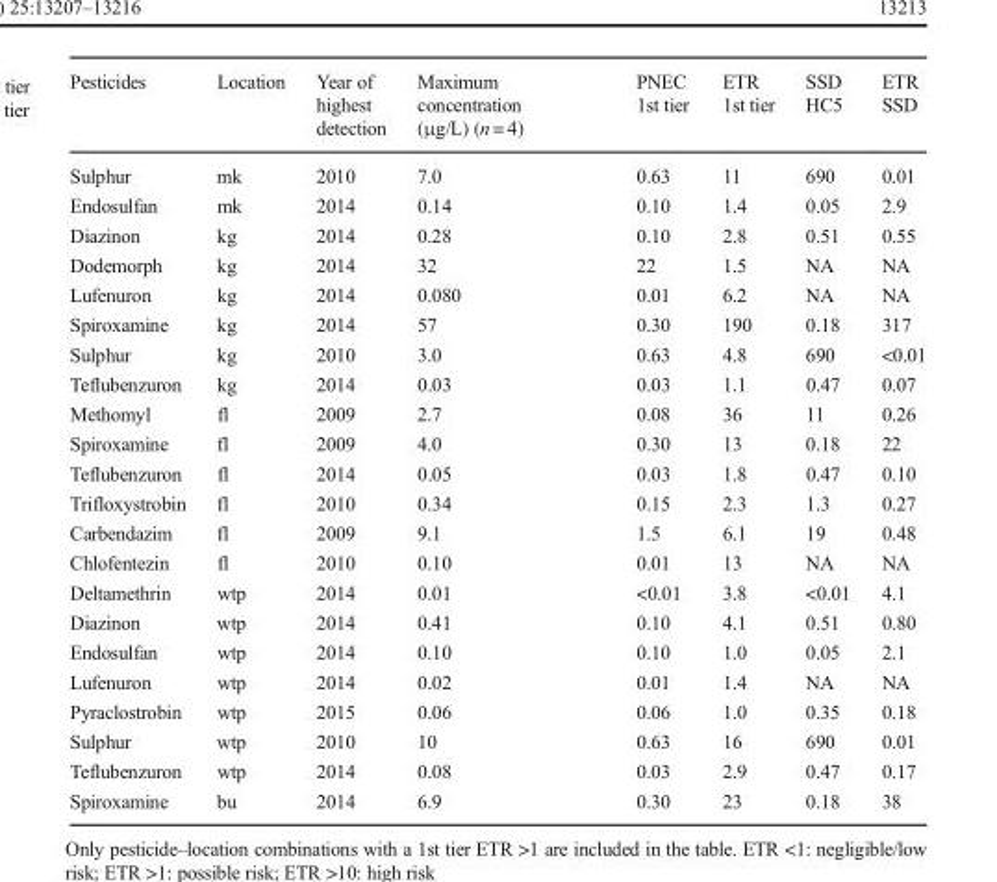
<table><thead><tr><td>Pesticides</td><td>Location</td><td>Year of highest detection</td><td>Maximum concentration (μg/L) (n = 4)</td><td>PNEC 1st tier</td><td>ETR 1st tier</td><td>SSD HC5</td><td>ETR SSD</td></tr></thead><tbody><tr><td>Sulphur</td><td>mk</td><td>2010</td><td>7.0</td><td>0.63</td><td>11</td><td>690</td><td>0.01</td></tr><tr><td>Endosulfan</td><td>mk</td><td>2014</td><td>0.14</td><td>0.10</td><td>1.4</td><td>0.05</td><td>2.9</td></tr><tr><td>Diazinon</td><td>kg</td><td>2014</td><td>0.28</td><td>0.10</td><td>2.8</td><td>0.51</td><td>0.55</td></tr><tr><td>Dodemorph</td><td>kg</td><td>2014</td><td>32</td><td>22</td><td>1.5</td><td>NA</td><td>NA</td></tr><tr><td>Lufenuron</td><td>kg</td><td>2014</td><td>0.080</td><td>0.01</td><td>6.2</td><td>NA</td><td>NA</td></tr><tr><td>Spiroxamine</td><td>kg</td><td>2014</td><td>57</td><td>0.30</td><td>190</td><td>0.18</td><td>317</td></tr><tr><td>Sulphur</td><td>kg</td><td>2010</td><td>3.0</td><td>0.63</td><td>4.8</td><td>690</td><td>&lt;0.01</td></tr><tr><td>Teflubenzuron</td><td>kg</td><td>2014</td><td>0.03</td><td>0.03</td><td>1.1</td><td>0.47</td><td>0.07</td></tr><tr><td>Methomyl</td><td>fl</td><td>2009</td><td>2.7</td><td>0.08</td><td>36</td><td>11</td><td>0.26</td></tr><tr><td>Spiroxamine</td><td>fl</td><td>2009</td><td>4.0</td><td>0.30</td><td>13</td><td>0.18</td><td>22</td></tr><tr><td>Teflubenzuron</td><td>fl</td><td>2014</td><td>0.05</td><td>0.03</td><td>1.8</td><td>0.47</td><td>0.10</td></tr><tr><td>Trifloxystrobin</td><td>fl</td><td>2010</td><td>0.34</td><td>0.15</td><td>2.3</td><td>1.3</td><td>0.27</td></tr><tr><td>Carbendazim</td><td>fl</td><td>2009</td><td>9.1</td><td>1.5</td><td>6.1</td><td>19</td><td>0.48</td></tr><tr><td>Chlofentezin</td><td>fl</td><td>2010</td><td>0.10</td><td>0.01</td><td>13</td><td>NA</td><td>NA</td></tr><tr><td>Deltamethrin</td><td>wtp</td><td>2014</td><td>0.01</td><td>&lt;0.01</td><td>3.8</td><td>&lt;0.01</td><td>4.1</td></tr><tr><td>Diazinon</td><td>wtp</td><td>2014</td><td>0.41</td><td>0.10</td><td>4.1</td><td>0.51</td><td>0.80</td></tr><tr><td>Endosulfan</td><td>wtp</td><td>2014</td><td>0.10</td><td>0.10</td><td>1.0</td><td>0.05</td><td>2.1</td></tr><tr><td>Lufenuron</td><td>wtp</td><td>2014</td><td>0.02</td><td>0.01</td><td>1.4</td><td>NA</td><td>NA</td></tr><tr><td>Pyraclostrobin</td><td>wtp</td><td>2015</td><td>0.06</td><td>0.06</td><td>1.0</td><td>0.35</td><td>0.18</td></tr><tr><td>Sulphur</td><td>wtp</td><td>2010</td><td>10</td><td>0.63</td><td>16</td><td>690</td><td>0.01</td></tr><tr><td>Teflubenzuron</td><td>wtp</td><td>2014</td><td>0.08</td><td>0.03</td><td>2.9</td><td>0.47</td><td>0.17</td></tr><tr><td>Spiroxamine</td><td>bu</td><td>2014</td><td>6.9</td><td>0.30</td><td>23</td><td>0.18</td><td>38</td></tr></tbody></table>